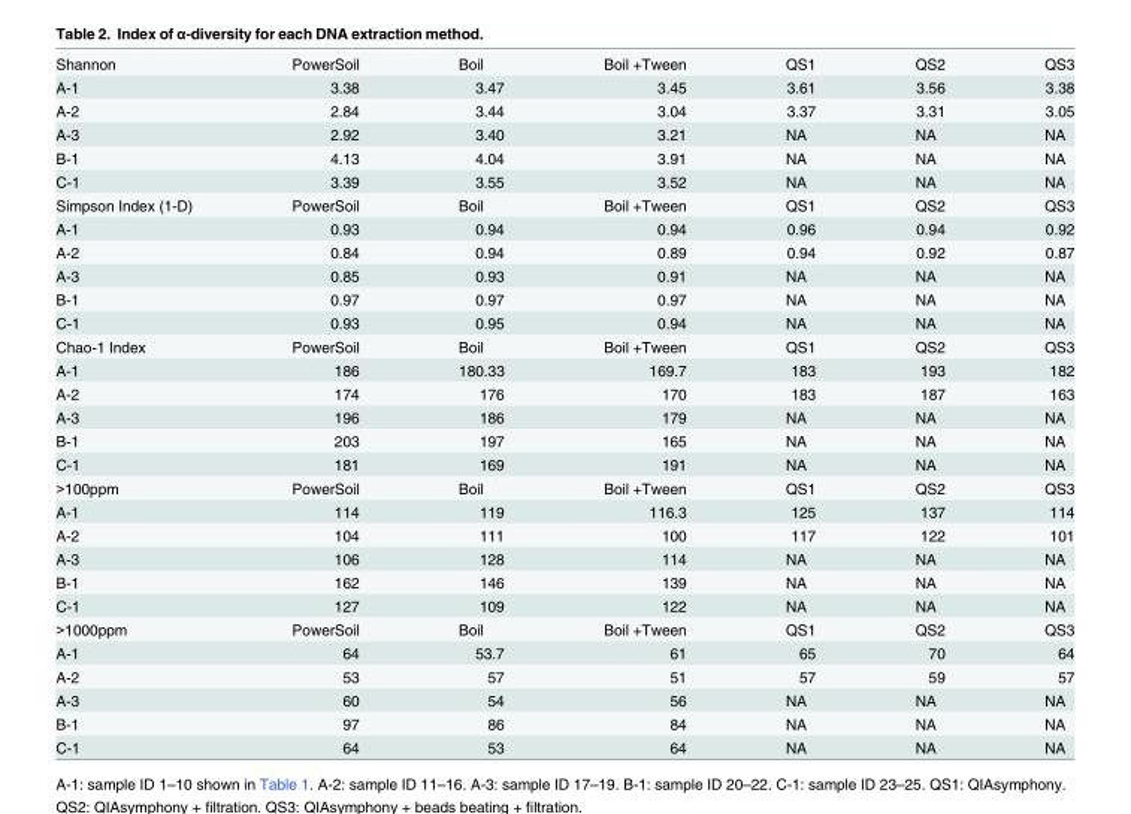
<table><tbody><tr><td>Shannon</td><td>PowerSoil</td><td>Boil</td><td>Boil +Tween</td><td>QS1</td><td>QS2</td><td>QS3</td></tr><tr><td>A-1</td><td>3.38</td><td>3.47</td><td>3.45</td><td>3.61</td><td>3.56</td><td>3.38</td></tr><tr><td>A-2</td><td>2.84</td><td>3.44</td><td>3.04</td><td>3.37</td><td>3.31</td><td>3.05</td></tr><tr><td>A-3</td><td>2.92</td><td>3.40</td><td>3.21</td><td>NA</td><td>NA</td><td>NA</td></tr><tr><td>B-1</td><td>4.13</td><td>4.04</td><td>3.91</td><td>NA</td><td>NA</td><td>NA</td></tr><tr><td>C-1</td><td>3.39</td><td>3.55</td><td>3.52</td><td>NA</td><td>NA</td><td>NA</td></tr><tr><td>Simpson Index (1-D)</td><td>PowerSoil</td><td>Boil</td><td>Boil +Tween</td><td>QS1</td><td>QS2</td><td>QS3</td></tr><tr><td>A-1</td><td>0.93</td><td>0.94</td><td>0.94</td><td>0.96</td><td>0.94</td><td>0.92</td></tr><tr><td>A-2</td><td>0.84</td><td>0.94</td><td>0.89</td><td>0.94</td><td>0.92</td><td>0.87</td></tr><tr><td>A-3</td><td>0.85</td><td>0.93</td><td>0.91</td><td>NA</td><td>NA</td><td>NA</td></tr><tr><td>B-1</td><td>0.97</td><td>0.97</td><td>0.97</td><td>NA</td><td>NA</td><td>NA</td></tr><tr><td>C-1</td><td>0.93</td><td>0.95</td><td>0.94</td><td>NA</td><td>NA</td><td>NA</td></tr><tr><td>Chao-1 Index</td><td>PowerSoil</td><td>Boil</td><td>Boil +Tween</td><td>QS1</td><td>QS2</td><td>QS3</td></tr><tr><td>A-1</td><td>186</td><td>180.33</td><td>169.7</td><td>183</td><td>193</td><td>182</td></tr><tr><td>A-2</td><td>174</td><td>176</td><td>170</td><td>183</td><td>187</td><td>163</td></tr><tr><td>A-3</td><td>196</td><td>186</td><td>179</td><td>NA</td><td>NA</td><td>NA</td></tr><tr><td>B-1</td><td>203</td><td>197</td><td>165</td><td>NA</td><td>NA</td><td>NA</td></tr><tr><td>C-1</td><td>181</td><td>169</td><td>191</td><td>NA</td><td>NA</td><td>NA</td></tr><tr><td>&gt;100ppm</td><td>PowerSoil</td><td>Boil</td><td>Boil +Tween</td><td>QS1</td><td>QS2</td><td>QS3</td></tr><tr><td>A-1</td><td>114</td><td>119</td><td>116.3</td><td>125</td><td>137</td><td>114</td></tr><tr><td>A-2</td><td>104</td><td>111</td><td>100</td><td>117</td><td>122</td><td>101</td></tr><tr><td>A-3</td><td>106</td><td>128</td><td>114</td><td>NA</td><td>NA</td><td>NA</td></tr><tr><td>B-1</td><td>162</td><td>146</td><td>139</td><td>NA</td><td>NA</td><td>NA</td></tr><tr><td>C-1</td><td>127</td><td>109</td><td>122</td><td>NA</td><td>NA</td><td>NA</td></tr><tr><td>&gt;1000ppm</td><td>PowerSoil</td><td>Boil</td><td>Boil +Tween</td><td>QS1</td><td>QS2</td><td>QS3</td></tr><tr><td>A-1</td><td>64</td><td>53.7</td><td>61</td><td>65</td><td>70</td><td>64</td></tr><tr><td>A-2</td><td>53</td><td>57</td><td>51</td><td>57</td><td>59</td><td>57</td></tr><tr><td>A-3</td><td>60</td><td>54</td><td>56</td><td>NA</td><td>NA</td><td>NA</td></tr><tr><td>B-1</td><td>97</td><td>86</td><td>84</td><td>NA</td><td>NA</td><td>NA</td></tr><tr><td>C-1</td><td>64</td><td>53</td><td>64</td><td>NA</td><td>NA</td><td>NA</td></tr></tbody></table>